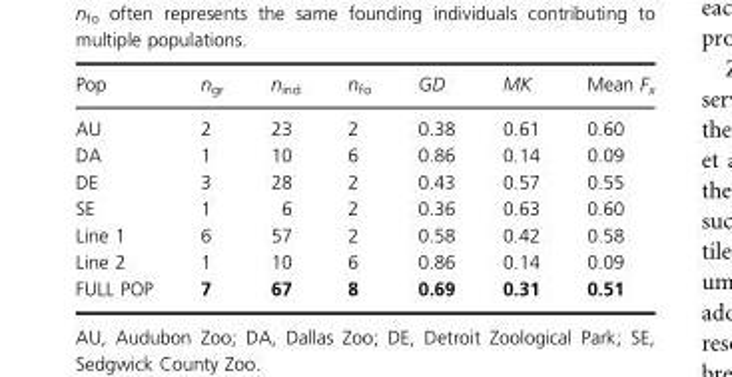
<table><thead><tr><td>Pop</td><td>n<sub>gr</sub></td><td>n<sub>ind</sub></td><td>n<sub>fo</sub></td><td>GD</td><td>MK</td><td>Mean F<sub>x</sub></td></tr></thead><tbody><tr><td>AU</td><td>2</td><td>23</td><td>2</td><td>0.38</td><td>0.61</td><td>0.60</td></tr><tr><td>DA</td><td>1</td><td>10</td><td>6</td><td>0.86</td><td>0.14</td><td>0.09</td></tr><tr><td>DE</td><td>3</td><td>28</td><td>2</td><td>0.43</td><td>0.57</td><td>0.55</td></tr><tr><td>SE</td><td>1</td><td>6</td><td>2</td><td>0.36</td><td>0.63</td><td>0.60</td></tr><tr><td>Line 1</td><td>6</td><td>57</td><td>2</td><td>0.58</td><td>0.42</td><td>0.58</td></tr><tr><td>Line 2</td><td>1</td><td>10</td><td>6</td><td>0.86</td><td>0.14</td><td>0.09</td></tr><tr><td>FULL POP</td><td>7</td><td>67</td><td>8</td><td>0.69</td><td>0.31</td><td>0.51</td></tr></tbody></table>